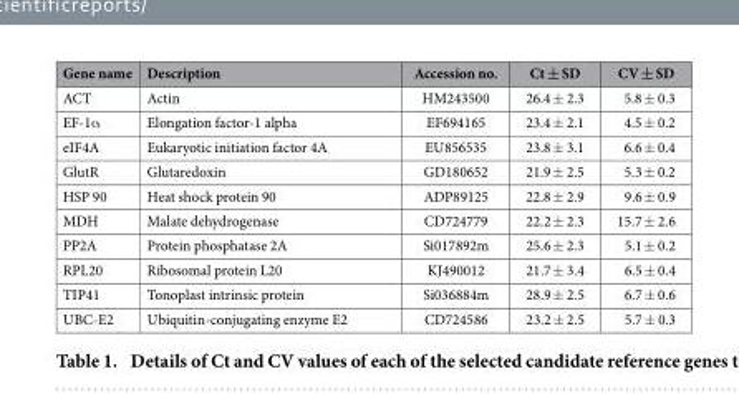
<table><thead><tr><td>Gene name</td><td>Description</td><td>Accession no.</td><td>Ct ± SD</td><td>CV ± SD</td></tr></thead><tbody><tr><td>ACT</td><td>Actin</td><td>HM243500</td><td>26.4 ± 2.3</td><td>5.8 ± 0.3</td></tr><tr><td>EF-1α</td><td>Elongation factor-1 alpha</td><td>EF694165</td><td>23.4 ± 2.1</td><td>4.5 ± 0.2</td></tr><tr><td>eIF4A</td><td>Eukaryotic initiation factor 4A</td><td>EU856535</td><td>23.8 ± 3.1</td><td>6.6 ± 0.4</td></tr><tr><td>GlutR</td><td>Glutaredoxin</td><td>GD180652</td><td>21.9 ± 2.5</td><td>5.3 ± 0.2</td></tr><tr><td>HSP 90</td><td>Heat shock protein 90</td><td>ADP89125</td><td>22.8 ± 2.9</td><td>9.6 ± 0.9</td></tr><tr><td>MDH</td><td>Malate dehydrogenase</td><td>CD724779</td><td>22.2 ± 2.3</td><td>15.7 ± 2.6</td></tr><tr><td>PP2A</td><td>Protein phosphatase 2A</td><td>Si017892m</td><td>25.6 ± 2.3</td><td>5.1 ± 0.2</td></tr><tr><td>RPL20</td><td>Ribosomal protein L20</td><td>KJ490012</td><td>21.7 ± 3.4</td><td>6.5 ± 0.4</td></tr><tr><td>TIP41</td><td>Tonoplast intrinsic protein</td><td>Si036884m</td><td>28.9 ± 2.5</td><td>6.7 ± 0.6</td></tr><tr><td>UBC-E2</td><td>Ubiquitin-conjugating enzyme E2</td><td>CD724586</td><td>23.2 ± 2.5</td><td>5.7 ± 0.3</td></tr></tbody></table>